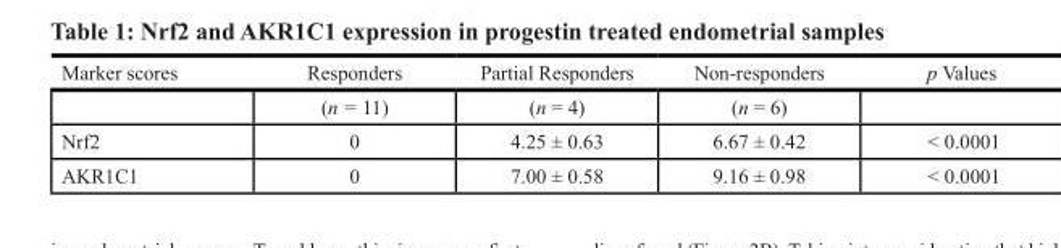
<table><thead><tr><td>Marker scores</td><td>Responders</td><td>Partial Responders</td><td>Non-responders</td><td>p Values</td></tr></thead><tbody><tr><td></td><td>(n = 11)</td><td>(n = 4)</td><td>(n = 6)</td><td></td></tr><tr><td>Nrf2</td><td>0</td><td>4.25 ± 0.63</td><td>6.67 ± 0.42</td><td>&lt; 0.0001</td></tr><tr><td>AKR1C1</td><td>0</td><td>7.00 ± 0.58</td><td>9.16 ± 0.98</td><td>&lt; 0.0001</td></tr></tbody></table>